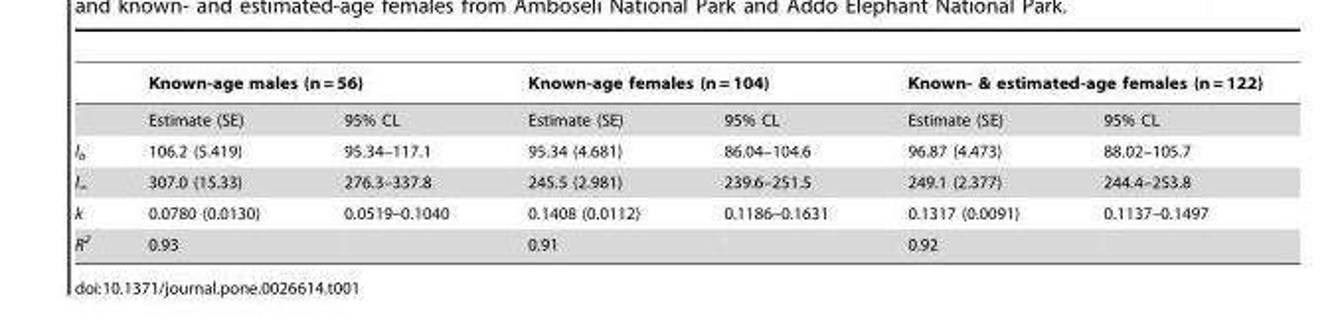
<table><thead><tr><td rowspan="2"></td><td colspan="2">Known-age males (n = 56)</td><td colspan="2">Known-age females (n = 104)</td><td colspan="2">Known- &amp; estimated-age females (n = 122)</td></tr><tr><td>Estimate (SE)</td><td>95% CL</td><td>Estimate (SE)</td><td>95% CL</td><td>Estimate (SE)</td><td>95% CL</td></tr></thead><tbody><tr><td>l<sub>b</sub></td><td>106.2 (5.419)</td><td>95.34–117.1</td><td>95.34 (4.681)</td><td>86.04–104.6</td><td>96.87 (4.473)</td><td>88.02–105.7</td></tr><tr><td>l‘</td><td>307.0 (15.33)</td><td>276.3–337.8</td><td>245.5 (2.981)</td><td>239.6–251.5</td><td>249.1 (2.377)</td><td>244.4–253.8</td></tr><tr><td>k</td><td>0.0780 (0.0130)</td><td>0.0519–0.1040</td><td>0.1408 (0.0112)</td><td>0.1186–0.1631</td><td>0.1317 (0.0091)</td><td>0.1137–0.1497</td></tr><tr><td>R<sup>2</sup></td><td>0.93</td><td></td><td>0.91</td><td></td><td>0.92</td><td></td></tr></tbody></table>